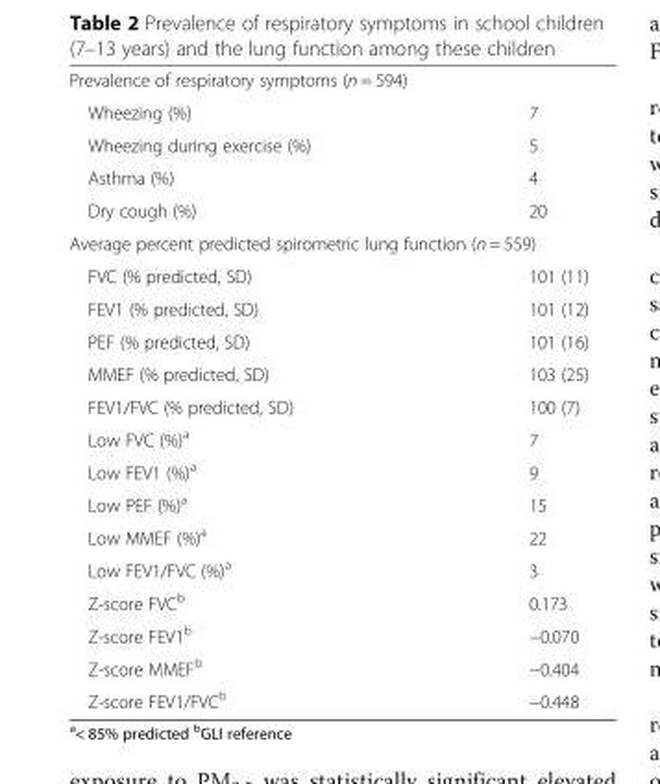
<table><tbody><tr><td colspan="2">Prevalence of respiratory symptoms (n = 594)</td></tr><tr><td>Wheezing (%)</td><td>7</td></tr><tr><td>Wheezing during exercise (%)</td><td>5</td></tr><tr><td>Asthma (%)</td><td>4</td></tr><tr><td>Dry cough (%)</td><td>20</td></tr><tr><td colspan="2">Average percent predicted spirometric lung function (n = 559)</td></tr><tr><td>FVC (% predicted, SD)</td><td>101 (11)</td></tr><tr><td>FEV1 (% predicted, SD)</td><td>101 (12)</td></tr><tr><td>PEF (% predicted, SD)</td><td>101 (16)</td></tr><tr><td>MMEF (% predicted, SD)</td><td>103 (25)</td></tr><tr><td>FEV1/FVC (% predicted, SD)</td><td>100 (7)</td></tr><tr><td>Low FVC (%)<sup>a</sup></td><td>7</td></tr><tr><td>Low FEV1 (%)<sup>a</sup></td><td>9</td></tr><tr><td>Low PEF (%)<sup>a</sup></td><td>15</td></tr><tr><td>Low MMEF (%)<sup>a</sup></td><td>22</td></tr><tr><td>Low FEV1/FVC (%)<sup>a</sup></td><td>3</td></tr><tr><td>Z-score FVC<sup>b</sup></td><td>0.173</td></tr><tr><td>Z-score FEV1<sup>b</sup></td><td>−0.070</td></tr><tr><td>Z-score MMEF<sup>b</sup></td><td>−0.404</td></tr><tr><td>Z-score FEV1/FVC<sup>b</sup></td><td>−0.448</td></tr></tbody></table>